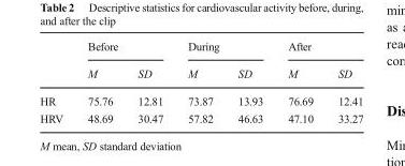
<table><thead><tr><td rowspan="2"></td><td colspan="2">Before</td><td colspan="2">During</td><td colspan="2">After</td></tr><tr><td>M</td><td>SD</td><td>M</td><td>SD</td><td>M</td><td>SD</td></tr></thead><tbody><tr><td>HR</td><td>75.76</td><td>12.81</td><td>73.87</td><td>13.93</td><td>76.69</td><td>12.41</td></tr><tr><td>HRV</td><td>48.69</td><td>30.47</td><td>57.82</td><td>46.63</td><td>47.10</td><td>33.27</td></tr></tbody></table>